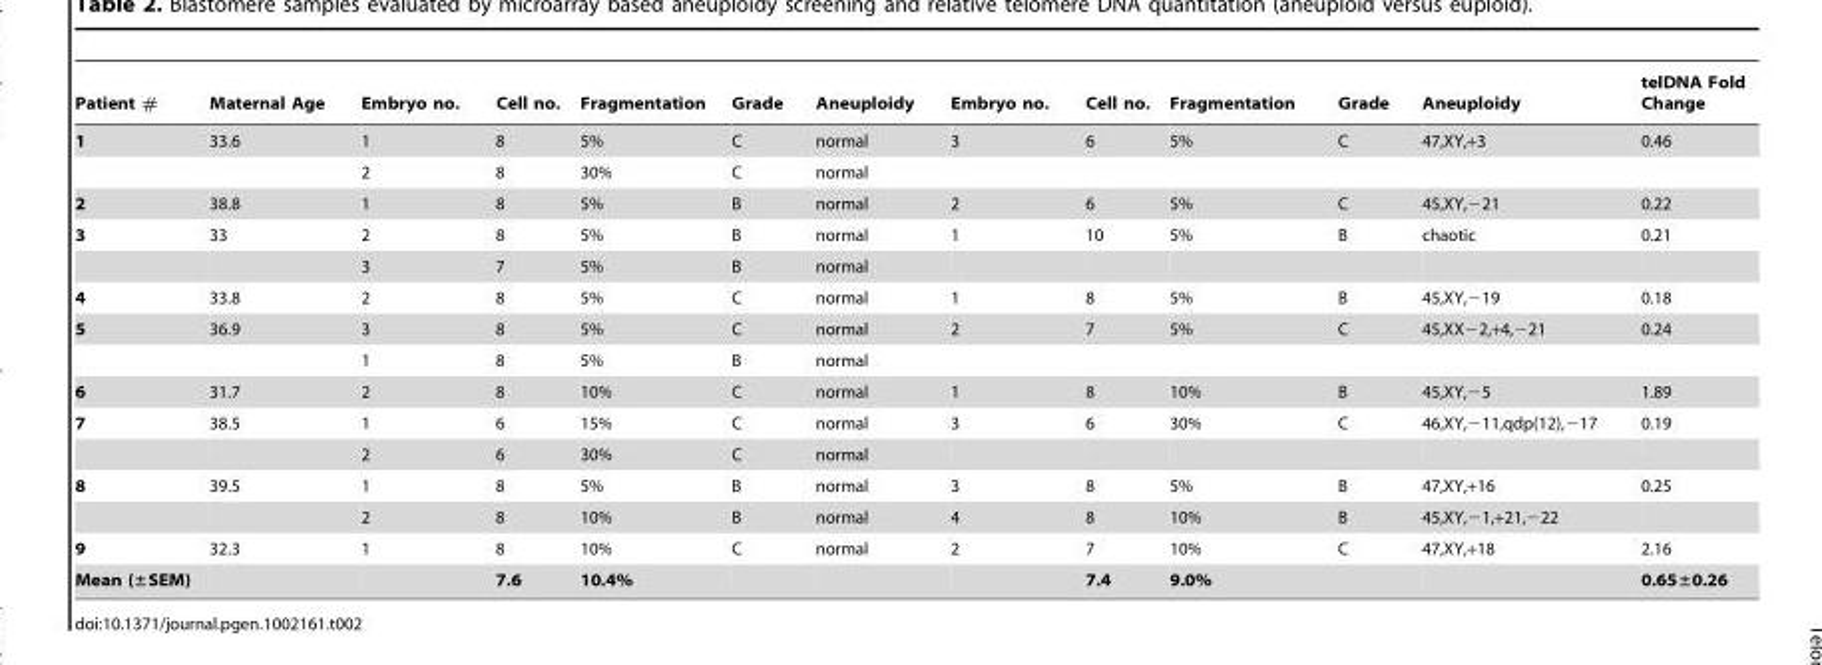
<table><thead><tr><td>Patient #</td><td>Maternal Age</td><td>Embryo no.</td><td>Cell no.</td><td>Fragmentation</td><td>Grade</td><td>Aneuploidy</td><td>Embryo no.</td><td>Cell no.</td><td>Fragmentation</td><td>Grade</td><td>Aneuploidy</td><td>telDNA Fold Change</td></tr></thead><tbody><tr><td rowspan="2">1</td><td>33.6</td><td>1</td><td>8</td><td>5%</td><td>C</td><td>normal</td><td>3</td><td>6</td><td>5%</td><td>C</td><td>47,XY,+3</td><td>0.46</td></tr><tr><td></td><td>2</td><td>8</td><td>30%</td><td>C</td><td>normal</td><td></td><td></td><td></td><td></td><td></td><td></td></tr><tr><td>2</td><td>38.8</td><td>1</td><td>8</td><td>5%</td><td>B</td><td>normal</td><td>2</td><td>6</td><td>5%</td><td>C</td><td>45,XY,−21</td><td>0.22</td></tr><tr><td rowspan="2">3</td><td>33</td><td>2</td><td>8</td><td>5%</td><td>B</td><td>normal</td><td>1</td><td>10</td><td>5%</td><td>B</td><td>chaotic</td><td>0.21</td></tr><tr><td></td><td>3</td><td>7</td><td>5%</td><td>B</td><td>normal</td><td></td><td></td><td></td><td></td><td></td><td></td></tr><tr><td>4</td><td>33.8</td><td>2</td><td>8</td><td>5%</td><td>C</td><td>normal</td><td>1</td><td>8</td><td>5%</td><td>B</td><td>45,XY,−19</td><td>0.18</td></tr><tr><td rowspan="2">5</td><td>36.9</td><td>3</td><td>8</td><td>5%</td><td>C</td><td>normal</td><td>2</td><td>7</td><td>5%</td><td>C</td><td>45,XX−2,+4,−21</td><td>0.24</td></tr><tr><td></td><td>1</td><td>8</td><td>5%</td><td>B</td><td>normal</td><td></td><td></td><td></td><td></td><td></td><td></td></tr><tr><td>6</td><td>31.7</td><td>2</td><td>8</td><td>10%</td><td>C</td><td>normal</td><td>1</td><td>8</td><td>10%</td><td>B</td><td>45,XY,−5</td><td>1.89</td></tr><tr><td rowspan="2">7</td><td>38.5</td><td>1</td><td>6</td><td>15%</td><td>C</td><td>normal</td><td>3</td><td>6</td><td>30%</td><td>C</td><td>46,XY,−11,qdp(12),−17</td><td>0.19</td></tr><tr><td></td><td>2</td><td>6</td><td>30%</td><td>C</td><td>normal</td><td></td><td></td><td></td><td></td><td></td><td></td></tr><tr><td rowspan="2">8</td><td>39.5</td><td>1</td><td>8</td><td>5%</td><td>B</td><td>normal</td><td>3</td><td>8</td><td>5%</td><td>B</td><td>47,XY,+16</td><td>0.25</td></tr><tr><td></td><td>2</td><td>8</td><td>10%</td><td>B</td><td>normal</td><td>4</td><td>8</td><td>10%</td><td>B</td><td>45,XY,−1,+21,−22</td><td></td></tr><tr><td>9</td><td>32.3</td><td>1</td><td>8</td><td>10%</td><td>C</td><td>normal</td><td>2</td><td>7</td><td>10%</td><td>C</td><td>47,XY,+18</td><td>2.16</td></tr><tr><td>Mean (±SEM)</td><td></td><td></td><td>7.6</td><td>10.4%</td><td></td><td></td><td></td><td>7.4</td><td>9.0%</td><td></td><td></td><td>0.65±0.26</td></tr></tbody></table>